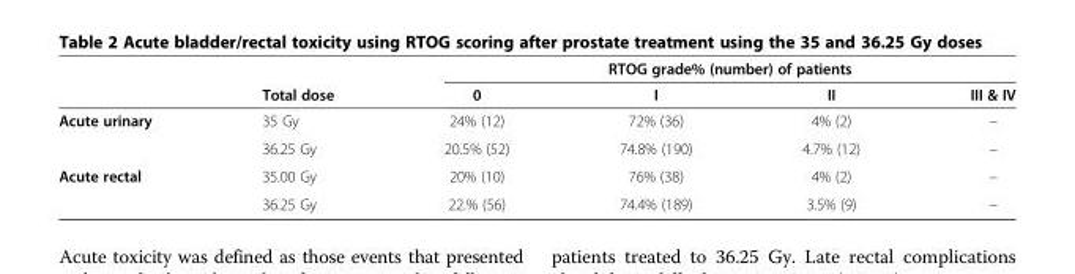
<table><thead><tr><td rowspan="2"></td><td rowspan="2">Total dose</td><td colspan="4">RTOG grade% (number) of patients</td></tr><tr><td>0</td><td>I</td><td>II</td><td>III &amp; IV</td></tr></thead><tbody><tr><td rowspan="2">Acute urinary</td><td>35 Gy</td><td>24% (12)</td><td>72% (36)</td><td>4% (2)</td><td>–</td></tr><tr><td>36.25 Gy</td><td>20.5% (52)</td><td>74.8% (190)</td><td>4.7% (12)</td><td>–</td></tr><tr><td rowspan="2">Acute rectal</td><td>35.00 Gy</td><td>20% (10)</td><td>76% (38)</td><td>4% (2)</td><td>–</td></tr><tr><td>36.25 Gy</td><td>22.% (56)</td><td>74.4% (189)</td><td>3.5% (9)</td><td>–</td></tr></tbody></table>